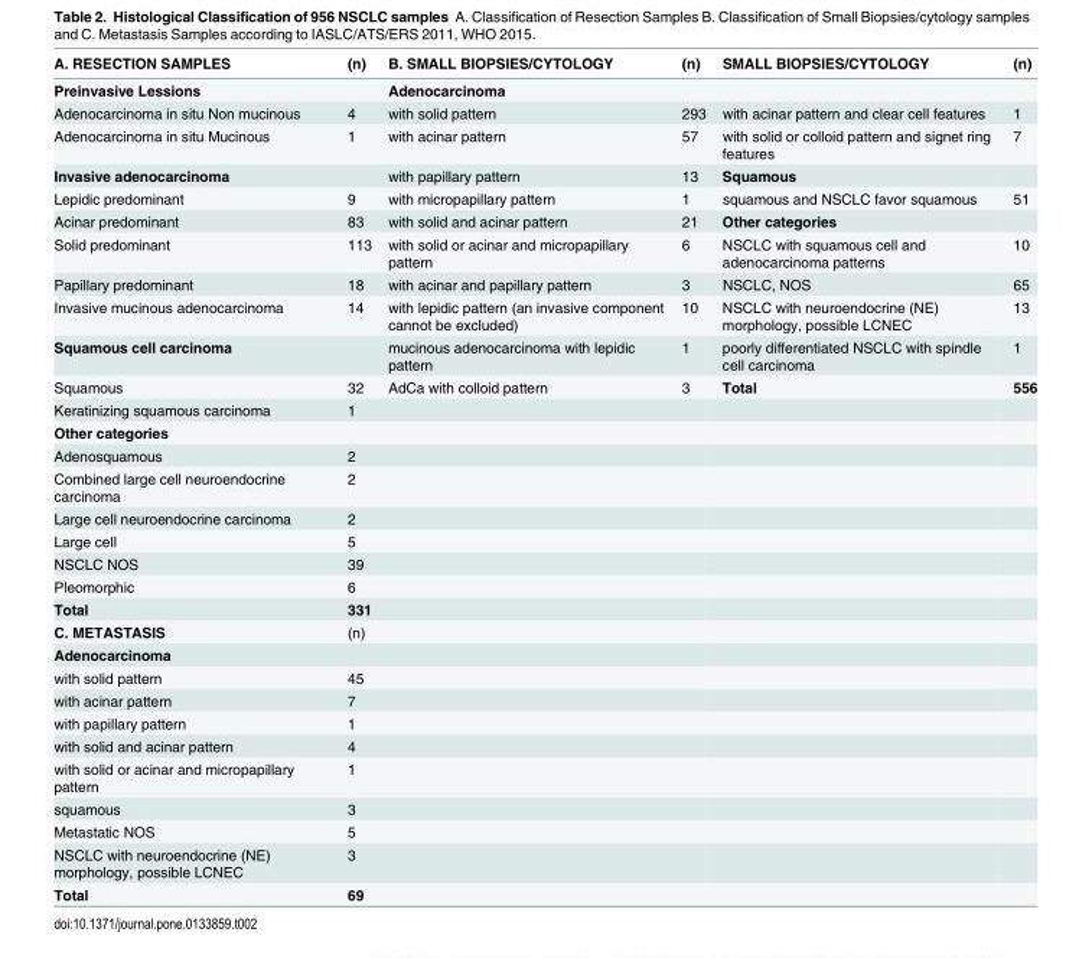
<table><thead><tr><td>A. RESECTION SAMPLES</td><td>(n)</td><td>B. SMALL BIOPSIES/CYTOLOGY</td><td>(n)</td><td>SMALL BIOPSIES/CYTOLOGY</td><td>(n)</td></tr></thead><tbody><tr><td>Preinvasive Lessions</td><td></td><td>Adenocarcinoma</td><td></td><td></td><td></td></tr><tr><td>Adenocarcinoma in situ Non mucinous</td><td>4</td><td>with solid pattern</td><td>293</td><td>with acinar pattern and clear cell features</td><td>1</td></tr><tr><td>Adenocarcinoma in situ Mucinous</td><td>1</td><td>with acinar pattern</td><td>57</td><td>with solid or colloid pattern and signet ring features</td><td>7</td></tr><tr><td>Invasive adenocarcinoma</td><td></td><td>with papillary pattern</td><td>13</td><td>Squamous</td><td></td></tr><tr><td>Lepidic predominant</td><td>9</td><td>with micropapillary pattern</td><td>1</td><td>squamous and NSCLC favor squamous</td><td>51</td></tr><tr><td>Acinar predominant</td><td>83</td><td>with solid and acinar pattern</td><td>21</td><td>Other categories</td><td></td></tr><tr><td>Solid predominant</td><td>113</td><td>with solid or acinar and micropapillary pattern</td><td>6</td><td>NSCLC with squamous cell and adenocarcinoma patterns</td><td>10</td></tr><tr><td>Papillary predominant</td><td>18</td><td>with acinar and papillary pattern</td><td>3</td><td>NSCLC, NOS</td><td>65</td></tr><tr><td>Invasive mucinous adenocarcinoma</td><td>14</td><td>with lepidic pattern (an invasive component cannot be excluded)</td><td>10</td><td>NSCLC with neuroendocrine (NE) morphology, possible LCNEC</td><td>13</td></tr><tr><td>Squamous cell carcinoma</td><td></td><td>mucinous adenocarcinoma with lepidic pattern</td><td>1</td><td>poorly differentiated NSCLC with spindle cell carcinoma</td><td>1</td></tr><tr><td>Squamous</td><td>32</td><td>AdCa with colloid pattern</td><td>3</td><td>Total</td><td>556</td></tr><tr><td>Keratinizing squamous carcinoma</td><td>1</td><td></td><td></td><td></td><td></td></tr><tr><td colspan="6">Other categories</td></tr><tr><td>Adenosquamous</td><td>2</td><td></td><td></td><td></td><td></td></tr><tr><td>Combined large cell neuroendocrine carcinoma</td><td>2</td><td></td><td></td><td></td><td></td></tr><tr><td>Large cell neuroendocrine carcinoma</td><td>2</td><td></td><td></td><td></td><td></td></tr><tr><td>Large cell</td><td>5</td><td></td><td></td><td></td><td></td></tr><tr><td>NSCLC NOS</td><td>39</td><td></td><td></td><td></td><td></td></tr><tr><td>Pleomorphic</td><td>6</td><td></td><td></td><td></td><td></td></tr><tr><td>Total</td><td>331</td><td></td><td></td><td></td><td></td></tr><tr><td>C. METASTASIS</td><td>(n)</td><td></td><td></td><td></td><td></td></tr><tr><td colspan="6">Adenocarcinoma</td></tr><tr><td>with solid pattern</td><td>45</td><td></td><td></td><td></td><td></td></tr><tr><td>with acinar pattern</td><td>7</td><td></td><td></td><td></td><td></td></tr><tr><td>with papillary pattern</td><td>1</td><td></td><td></td><td></td><td></td></tr><tr><td>with solid and acinar pattern</td><td>4</td><td></td><td></td><td></td><td></td></tr><tr><td>with solid or acinar and micropapillary pattern</td><td>1</td><td></td><td></td><td></td><td></td></tr><tr><td>squamous</td><td>3</td><td></td><td></td><td></td><td></td></tr><tr><td>Metastatic NOS</td><td>5</td><td></td><td></td><td></td><td></td></tr><tr><td>NSCLC with neuroendocrine (NE) morphology, possible LCNEC</td><td>3</td><td></td><td></td><td></td><td></td></tr><tr><td>Total</td><td>69</td><td></td><td></td><td></td><td></td></tr></tbody></table>